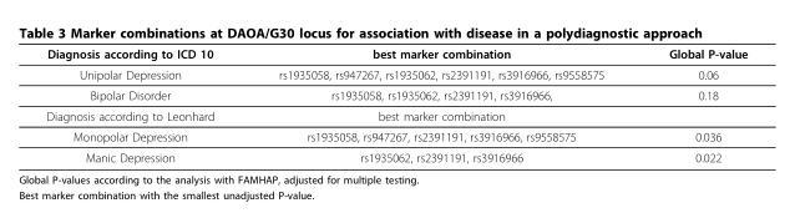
<table><thead><tr><td>Diagnosis according to ICD 10</td><td>best marker combination</td><td>Global P-value</td></tr></thead><tbody><tr><td>Unipolar Depression</td><td>rs1935058, rs947267, rs1935062, rs2391191, rs3916966, rs9558575</td><td>0.06</td></tr><tr><td>Bipolar Disorder</td><td>rs1935058, rs1935062, rs2391191, rs3916966,</td><td>0.18</td></tr><tr><td>Diagnosis according to Leonhard</td><td>best marker combination</td><td></td></tr><tr><td>Monopolar Depression</td><td>rs1935058, rs947267, rs2391191, rs3916966, rs9558575</td><td>0.036</td></tr><tr><td>Manic Depression</td><td>rs1935062, rs2391191, rs3916966</td><td>0.022</td></tr></tbody></table>